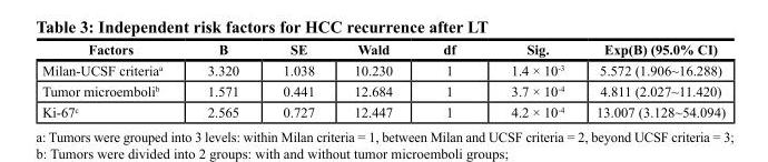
<table><thead><tr><td>Factors</td><td>b</td><td>sE</td><td>Wald</td><td>df</td><td>sig.</td><td>Exp(b) (95.0% cI)</td></tr></thead><tbody><tr><td>Milan-UCSF criteria<sup>a</sup></td><td>3.320</td><td>1.038</td><td>10.230</td><td>1</td><td>1.4 × 10<sup>-3</sup></td><td>5.572 (1.906~16.288)</td></tr><tr><td>Tumor microemboli<sup>b</sup></td><td>1.571</td><td>0.441</td><td>12.684</td><td>1</td><td>3.7 × 10<sup>-4</sup></td><td>4.811 (2.027~11.420)</td></tr><tr><td>Ki-67<sup>c</sup></td><td>2.565</td><td>0.727</td><td>12.447</td><td>1</td><td>4.2 × 10<sup>-4</sup></td><td>13.007 (3.128~54.094)</td></tr></tbody></table>